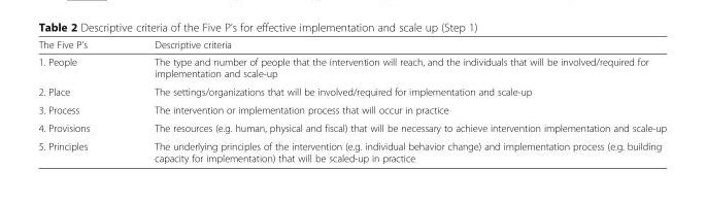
<table><thead><tr><td>The Five P’s</td><td>Descriptive criteria</td></tr></thead><tbody><tr><td>1. People</td><td>The type and number of people that the intervention will reach, and the individuals that will be involved/required for implementation and scale-up</td></tr><tr><td>2. Place</td><td>The settings/organizations that will be involved/required for implementation and scale-up</td></tr><tr><td>3. Process</td><td>The intervention or implementation process that will occur in practice</td></tr><tr><td>4. Provisions</td><td>The resources (e.g. human, physical and fiscal) that will be necessary to achieve intervention implementation and scale-up</td></tr><tr><td>5. Principles</td><td>The underlying principles of the intervention (e.g. individual behavior change) and implementation process (e.g. building capacity for implementation) that will be scaled-up in practice</td></tr></tbody></table>